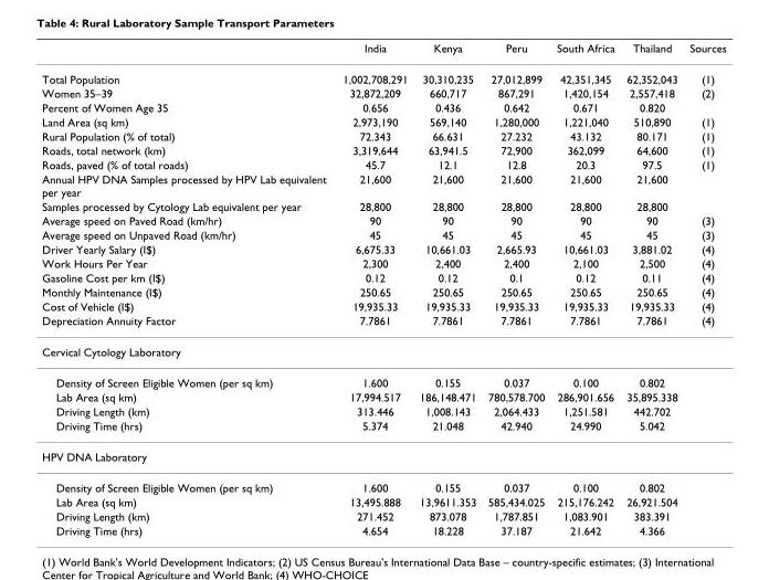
<table><thead><tr><td></td><td>India</td><td>Kenya</td><td>Peru</td><td>South Africa</td><td>Thailand</td><td>Sources</td></tr></thead><tbody><tr><td>Total Population</td><td>1,002,708,291</td><td>30,310,235</td><td>27,012,899</td><td>42,351,345</td><td>62,352,043</td><td>(1)</td></tr><tr><td>Women 35–39</td><td>32,872,209</td><td>660,717</td><td>867,291</td><td>1,420,154</td><td>2,557,418</td><td>(2)</td></tr><tr><td>Percent of Women Age 35</td><td>0.656</td><td>0.436</td><td>0.642</td><td>0.671</td><td>0.820</td><td></td></tr><tr><td>Land Area (sq km)</td><td>2,973,190</td><td>569,140</td><td>1,280,000</td><td>1,221,040</td><td>510,890</td><td>(1)</td></tr><tr><td>Rural Population (% of total)</td><td>72.343</td><td>66.631</td><td>27.232</td><td>43.132</td><td>80.171</td><td>(1)</td></tr><tr><td>Roads, total network (km)</td><td>3,319,644</td><td>63,941.5</td><td>72,900</td><td>362,099</td><td>64,600</td><td>(1)</td></tr><tr><td>Roads, paved (% of total roads)</td><td>45.7</td><td>12.1</td><td>12.8</td><td>20.3</td><td>97.5</td><td>(1)</td></tr><tr><td>Annual HPV DNA Samples processed by HPV Lab equivalent per year</td><td>21,600</td><td>21,600</td><td>21,600</td><td>21,600</td><td>21,600</td><td></td></tr><tr><td>Samples processed by Cytology Lab equivalent per year</td><td>28,800</td><td>28,800</td><td>28,800</td><td>28,800</td><td>28,800</td><td></td></tr><tr><td>Average speed on Paved Road (km/hr)</td><td>90</td><td>90</td><td>90</td><td>90</td><td>90</td><td>(3)</td></tr><tr><td>Average speed on Unpaved Road (km/hr)</td><td>45</td><td>45</td><td>45</td><td>45</td><td>45</td><td>(3)</td></tr><tr><td>Driver Yearly Salary (I$)</td><td>6,675.33</td><td>10,661.03</td><td>2,665.93</td><td>10,661.03</td><td>3,881.02</td><td>(4)</td></tr><tr><td>Work Hours Per Year</td><td>2,300</td><td>2,400</td><td>2,400</td><td>2,100</td><td>2,500</td><td>(4)</td></tr><tr><td>Gasoline Cost per km (I$)</td><td>0.12</td><td>0.12</td><td>0.1</td><td>0.12</td><td>0.11</td><td>(4)</td></tr><tr><td>Monthly Maintenance (I$)</td><td>250.65</td><td>250.65</td><td>250.65</td><td>250.65</td><td>250.65</td><td>(4)</td></tr><tr><td>Cost of Vehicle (I$)</td><td>19,935.33</td><td>19,935.33</td><td>19,935.33</td><td>19,935.33</td><td>19,935.33</td><td>(4)</td></tr><tr><td>Depreciation Annuity Factor</td><td>7.7861</td><td>7.7861</td><td>7.7861</td><td>7.7861</td><td>7.7861</td><td>(4)</td></tr><tr><td colspan="7">Cervical Cytology Laboratory</td></tr><tr><td>Density of Screen Eligible Women (per sq km)</td><td>1.600</td><td>0.155</td><td>0.037</td><td>0.100</td><td>0.802</td><td></td></tr><tr><td>Lab Area (sq km)</td><td>17,994.517</td><td>186,148.471</td><td>780,578.700</td><td>286,901.656</td><td>35,895.338</td><td></td></tr><tr><td>Driving Length (km)</td><td>313.446</td><td>1,008.143</td><td>2,064.433</td><td>1,251.581</td><td>442.702</td><td></td></tr><tr><td>Driving Time (hrs)</td><td>5.374</td><td>21.048</td><td>42.940</td><td>24.990</td><td>5.042</td><td></td></tr><tr><td colspan="7">HPV DNA Laboratory</td></tr><tr><td>Density of Screen Eligible Women (per sq km)</td><td>1.600</td><td>0.155</td><td>0.037</td><td>0.100</td><td>0.802</td><td></td></tr><tr><td>Lab Area (sq km)</td><td>13,495.888</td><td>13,9611.353</td><td>585,434.025</td><td>215,176.242</td><td>26,921.504</td><td></td></tr><tr><td>Driving Length (km)</td><td>271.452</td><td>873.078</td><td>1,787.851</td><td>1,083.901</td><td>383.391</td><td></td></tr><tr><td>Driving Time (hrs)</td><td>4.654</td><td>18.228</td><td>37.187</td><td>21.642</td><td>4.366</td><td></td></tr></tbody></table>